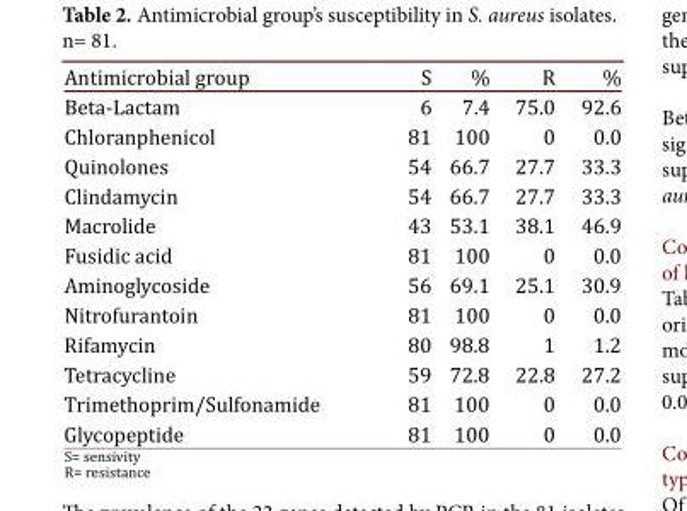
<table><thead><tr><td>Antimicrobial group</td><td>S</td><td>%</td><td>R</td><td>%</td></tr></thead><tbody><tr><td>Beta-Lactam</td><td>6</td><td>7.4</td><td>75.0</td><td>92.6</td></tr><tr><td>Chloranphenicol</td><td>81</td><td>100</td><td>0</td><td>0.0</td></tr><tr><td>Quinolones</td><td>54</td><td>66.7</td><td>27.7</td><td>33.3</td></tr><tr><td>Clindamycin</td><td>54</td><td>66.7</td><td>27.7</td><td>33.3</td></tr><tr><td>Macrolide</td><td>43</td><td>53.1</td><td>38.1</td><td>46.9</td></tr><tr><td>Fusidic acid</td><td>81</td><td>100</td><td>0</td><td>0.0</td></tr><tr><td>Aminoglycoside</td><td>56</td><td>69.1</td><td>25.1</td><td>30.9</td></tr><tr><td>Nitrofurantoin</td><td>81</td><td>100</td><td>0</td><td>0.0</td></tr><tr><td>Rifamycin</td><td>80</td><td>98.8</td><td>1</td><td>1.2</td></tr><tr><td>Tetracycline</td><td>59</td><td>72.8</td><td>22.8</td><td>27.2</td></tr><tr><td>Trimethoprim/Sulfonamide</td><td>81</td><td>100</td><td>0</td><td>0.0</td></tr><tr><td>Glycopeptide</td><td>81</td><td>100</td><td>0</td><td>0.0</td></tr></tbody></table>